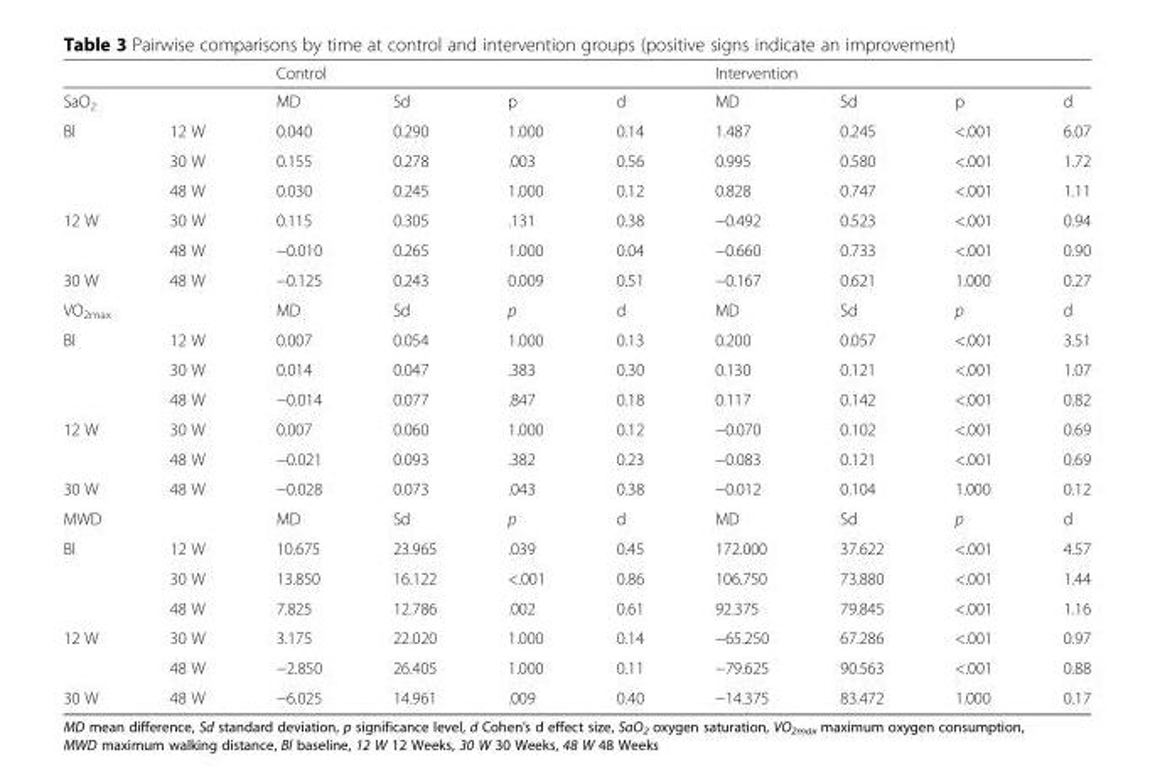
<table><thead><tr><td></td><td></td><td colspan="4">Control</td><td colspan="4">Intervention</td></tr><tr><td colspan="2">SaO<sub>2</sub></td><td>MD</td><td>Sd</td><td>p</td><td>d</td><td>MD</td><td>Sd</td><td>p</td><td>d</td></tr></thead><tbody><tr><td rowspan="3">Bl</td><td>12 W</td><td>0.040</td><td>0.290</td><td>1.000</td><td>0.14</td><td>1.487</td><td>0.245</td><td>&lt;.001</td><td>6.07</td></tr><tr><td>30 W</td><td>0.155</td><td>0.278</td><td>.003</td><td>0.56</td><td>0.995</td><td>0.580</td><td>&lt;.001</td><td>1.72</td></tr><tr><td>48 W</td><td>0.030</td><td>0.245</td><td>1.000</td><td>0.12</td><td>0.828</td><td>0.747</td><td>&lt;.001</td><td>1.11</td></tr><tr><td rowspan="2">12 W</td><td>30 W</td><td>0.115</td><td>0.305</td><td>.131</td><td>0.38</td><td>−0.492</td><td>0.523</td><td>&lt;.001</td><td>0.94</td></tr><tr><td>48 W</td><td>−0.010</td><td>0.265</td><td>1.000</td><td>0.04</td><td>−0.660</td><td>0.733</td><td>&lt;.001</td><td>0.90</td></tr><tr><td>30 W</td><td>48 W</td><td>−0.125</td><td>0.243</td><td>0.009</td><td>0.51</td><td>−0.167</td><td>0.621</td><td>1.000</td><td>0.27</td></tr><tr><td colspan="2">VO<sub>2max</sub></td><td>MD</td><td>Sd</td><td>p</td><td>d</td><td>MD</td><td>Sd</td><td>p</td><td>d</td></tr><tr><td rowspan="3">Bl</td><td>12 W</td><td>0.007</td><td>0.054</td><td>1.000</td><td>0.13</td><td>0.200</td><td>0.057</td><td>&lt;.001</td><td>3.51</td></tr><tr><td>30 W</td><td>0.014</td><td>0.047</td><td>.383</td><td>0.30</td><td>0.130</td><td>0.121</td><td>&lt;.001</td><td>1.07</td></tr><tr><td>48 W</td><td>−0.014</td><td>0.077</td><td>.847</td><td>0.18</td><td>0.117</td><td>0.142</td><td>&lt;.001</td><td>0.82</td></tr><tr><td rowspan="2">12 W</td><td>30 W</td><td>0.007</td><td>0.060</td><td>1.000</td><td>0.12</td><td>−0.070</td><td>0.102</td><td>&lt;.001</td><td>0.69</td></tr><tr><td>48 W</td><td>−0.021</td><td>0.093</td><td>.382</td><td>0.23</td><td>−0.083</td><td>0.121</td><td>&lt;.001</td><td>0.69</td></tr><tr><td>30 W</td><td>48 W</td><td>−0.028</td><td>0.073</td><td>.043</td><td>0.38</td><td>−0.012</td><td>0.104</td><td>1.000</td><td>0.12</td></tr><tr><td colspan="2">MWD</td><td>MD</td><td>Sd</td><td>p</td><td>d</td><td>MD</td><td>Sd</td><td>p</td><td>d</td></tr><tr><td rowspan="3">Bl</td><td>12 W</td><td>10.675</td><td>23.965</td><td>.039</td><td>0.45</td><td>172.000</td><td>37.622</td><td>&lt;.001</td><td>4.57</td></tr><tr><td>30 W</td><td>13.850</td><td>16.122</td><td>&lt;.001</td><td>0.86</td><td>106.750</td><td>73.880</td><td>&lt;.001</td><td>1.44</td></tr><tr><td>48 W</td><td>7.825</td><td>12.786</td><td>.002</td><td>0.61</td><td>92.375</td><td>79.845</td><td>&lt;.001</td><td>1.16</td></tr><tr><td rowspan="2">12 W</td><td>30 W</td><td>3.175</td><td>22.020</td><td>1.000</td><td>0.14</td><td>−65.250</td><td>67.286</td><td>&lt;.001</td><td>0.97</td></tr><tr><td>48 W</td><td>−2.850</td><td>26.405</td><td>1.000</td><td>0.11</td><td>−79.625</td><td>90.563</td><td>&lt;.001</td><td>0.88</td></tr><tr><td>30 W</td><td>48 W</td><td>−6.025</td><td>14.961</td><td>.009</td><td>0.40</td><td>−14.375</td><td>83.472</td><td>1.000</td><td>0.17</td></tr></tbody></table>